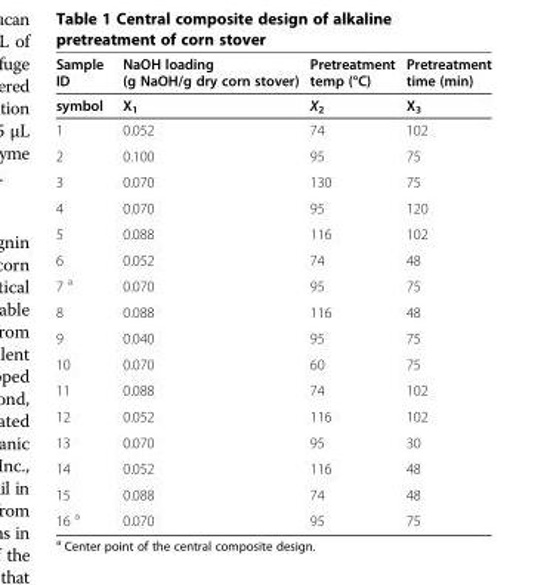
<table><thead><tr><td>Sample ID</td><td>NaOH loading (g NaOH/g dry corn stover)</td><td>Pretreatment temp (°C)</td><td>Pretreatment time (min)</td></tr></thead><tbody><tr><td>symbol</td><td>X<sub>1</sub></td><td>X<sub>2</sub></td><td>X<sub>3</sub></td></tr><tr><td>1</td><td>0.052</td><td>74</td><td>102</td></tr><tr><td>2</td><td>0.100</td><td>95</td><td>75</td></tr><tr><td>3</td><td>0.070</td><td>130</td><td>75</td></tr><tr><td>4</td><td>0.070</td><td>95</td><td>120</td></tr><tr><td>5</td><td>0.088</td><td>116</td><td>102</td></tr><tr><td>6</td><td>0.052</td><td>74</td><td>48</td></tr><tr><td>7 <sup>a</sup></td><td>0.070</td><td>95</td><td>75</td></tr><tr><td>8</td><td>0.088</td><td>116</td><td>48</td></tr><tr><td>9</td><td>0.040</td><td>95</td><td>75</td></tr><tr><td>10</td><td>0.070</td><td>60</td><td>75</td></tr><tr><td>11</td><td>0.088</td><td>74</td><td>102</td></tr><tr><td>12</td><td>0.052</td><td>116</td><td>102</td></tr><tr><td>13</td><td>0.070</td><td>95</td><td>30</td></tr><tr><td>14</td><td>0.052</td><td>116</td><td>48</td></tr><tr><td>15</td><td>0.088</td><td>74</td><td>48</td></tr><tr><td>16 <sup>a</sup></td><td>0.070</td><td>95</td><td>75</td></tr></tbody></table>